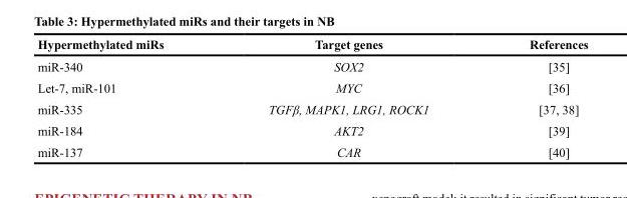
<table><thead><tr><td>Hypermethylated miRs</td><td>Target genes</td><td>References</td></tr></thead><tbody><tr><td>miR-340</td><td>SOX2</td><td>[35]</td></tr><tr><td>Let-7, miR-101</td><td>MYC</td><td>[36]</td></tr><tr><td>miR-335</td><td>TGFβ, MAPK1, LRG1, ROCK1</td><td>[37, 38]</td></tr><tr><td>miR-184</td><td>AKT2</td><td>[39]</td></tr><tr><td>miR-137</td><td>CAR</td><td>[40]</td></tr></tbody></table>